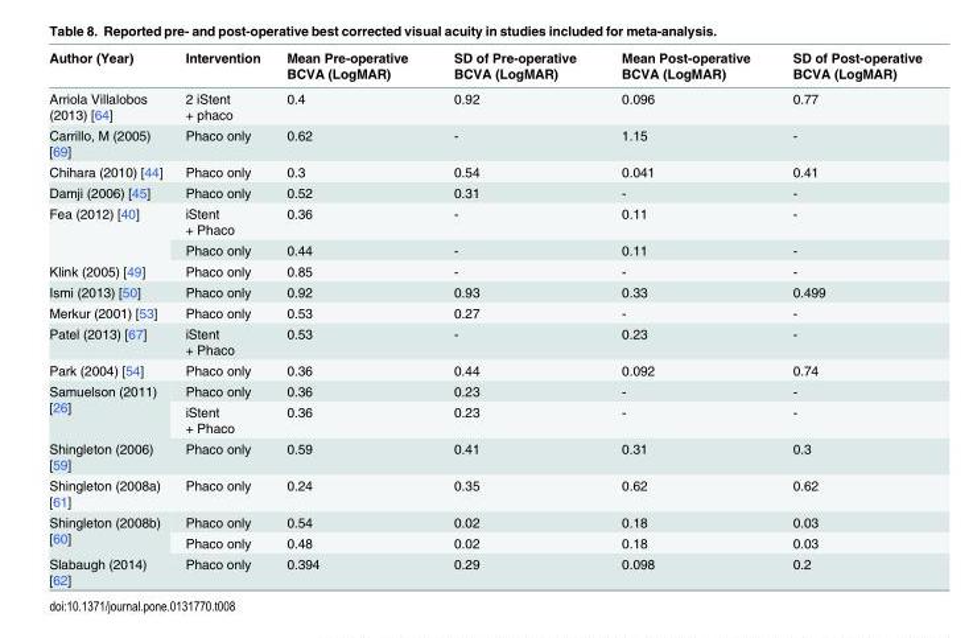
<table><thead><tr><td>Author (Year)</td><td>Intervention</td><td>Mean Pre-operative BCVA (LogMAR)</td><td>SD of Pre-operative BCVA (LogMAR)</td><td>Mean Post-operative BCVA (LogMAR)</td><td>SD of Post-operative BCVA (LogMAR)</td></tr></thead><tbody><tr><td>Arriola Villalobos (2013) [64]</td><td>2 iStent + phaco</td><td>0.4</td><td>0.92</td><td>0.096</td><td>0.77</td></tr><tr><td>Carrillo, M (2005) [69]</td><td>Phaco only</td><td>0.62</td><td>-</td><td>1.15</td><td>-</td></tr><tr><td>Chihara (2010) [44]</td><td>Phaco only</td><td>0.3</td><td>0.54</td><td>0.041</td><td>0.41</td></tr><tr><td>Damji (2006) [45]</td><td>Phaco only</td><td>0.52</td><td>0.31</td><td>-</td><td>-</td></tr><tr><td rowspan="2">Fea (2012) [40]</td><td>iStent + Phaco</td><td>0.36</td><td>-</td><td>0.11</td><td>-</td></tr><tr><td>Phaco only</td><td>0.44</td><td>-</td><td>0.11</td><td>-</td></tr><tr><td>Klink (2005) [49]</td><td>Phaco only</td><td>0.85</td><td>-</td><td>-</td><td>-</td></tr><tr><td>Ismi (2013) [50]</td><td>Phaco only</td><td>0.92</td><td>0.93</td><td>0.33</td><td>0.499</td></tr><tr><td>Merkur (2001) [53]</td><td>Phaco only</td><td>0.53</td><td>0.27</td><td>-</td><td>-</td></tr><tr><td>Patel (2013) [67]</td><td>iStent + Phaco</td><td>0.53</td><td>-</td><td>0.23</td><td>-</td></tr><tr><td>Park (2004) [54]</td><td>Phaco only</td><td>0.36</td><td>0.44</td><td>0.092</td><td>0.74</td></tr><tr><td rowspan="2">Samuelson (2011) [26]</td><td>Phaco only</td><td>0.36</td><td>0.23</td><td>-</td><td>-</td></tr><tr><td>iStent + Phaco</td><td>0.36</td><td>0.23</td><td>-</td><td>-</td></tr><tr><td>Shingleton (2006) [59]</td><td>Phaco only</td><td>0.59</td><td>0.41</td><td>0.31</td><td>0.3</td></tr><tr><td>Shingleton (2008a) [61]</td><td>Phaco only</td><td>0.24</td><td>0.35</td><td>0.62</td><td>0.62</td></tr><tr><td rowspan="2">Shingleton (2008b) [60]</td><td>Phaco only</td><td>0.54</td><td>0.02</td><td>0.18</td><td>0.03</td></tr><tr><td>Phaco only</td><td>0.48</td><td>0.02</td><td>0.18</td><td>0.03</td></tr><tr><td>Slabaugh (2014) [62]</td><td>Phaco only</td><td>0.394</td><td>0.29</td><td>0.098</td><td>0.2</td></tr></tbody></table>